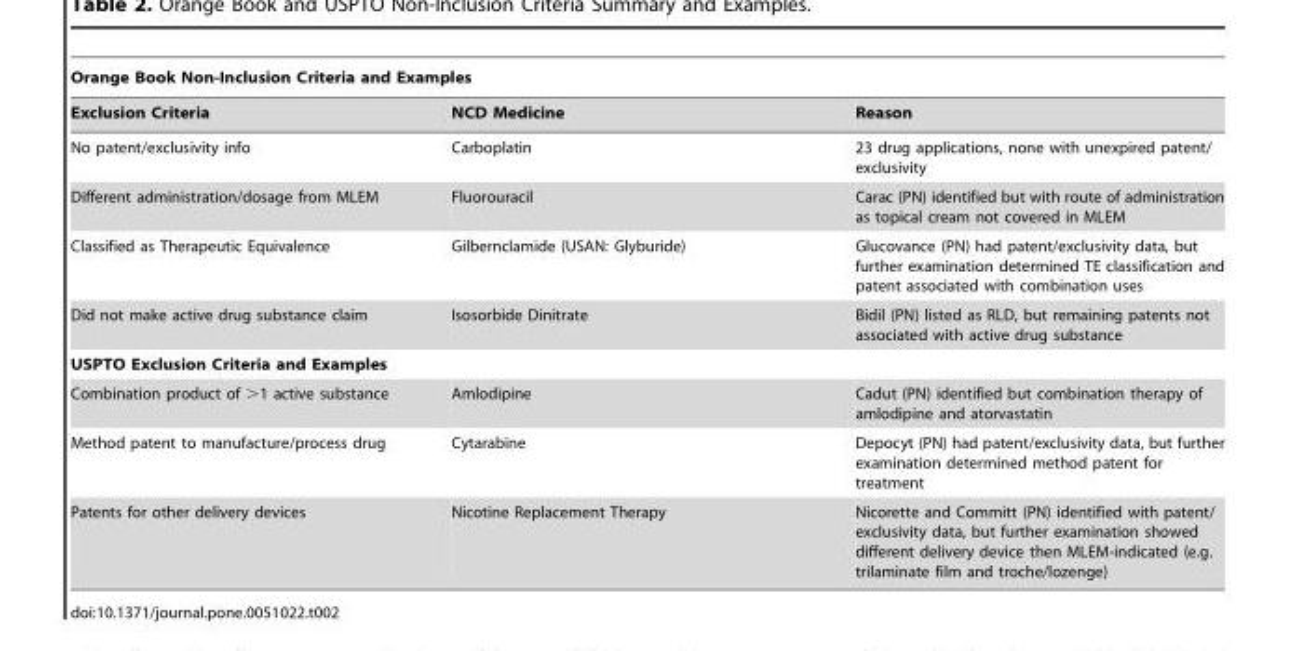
<table><thead><tr><td colspan="3">Orange Book Non-Inclusion Criteria and Examples</td></tr><tr><td>Exclusion Criteria</td><td>NCD Medicine</td><td>Reason</td></tr></thead><tbody><tr><td>No patent/exclusivity info</td><td>Carboplatin</td><td>23 drug applications, none with unexpired patent/ exclusivity</td></tr><tr><td>Different administration/dosage from MLEM</td><td>Fluorouracil</td><td>Carac (PN) identified but with route of administration as topical cream not covered in MLEM</td></tr><tr><td>Classified as Therapeutic Equivalence</td><td>Gilbernclamide (USAN: Glyburide)</td><td>Glucovance (PN) had patent/exclusivity data, but further examination determined TE classification and patent associated with combination uses</td></tr><tr><td>Did not make active drug substance claim</td><td>Isosorbide Dinitrate</td><td>Bidil (PN) listed as RLD, but remaining patents not associated with active drug substance</td></tr><tr><td colspan="3">USPTO Exclusion Criteria and Examples</td></tr><tr><td>Combination product of .1 active substance</td><td>Amlodipine</td><td>Cadut (PN) identified but combination therapy of amlodipine and atorvastatin</td></tr><tr><td>Method patent to manufacture/process drug</td><td>Cytarabine</td><td>Depocyt (PN) had patent/exclusivity data, but further examination determined method patent for treatment</td></tr><tr><td>Patents for other delivery devices</td><td>Nicotine Replacement Therapy</td><td>Nicorette and Committ (PN) identified with patent/ exclusivity data, but further examination showed different delivery device then MLEM-indicated (e.g. trilaminate film and troche/lozenge)</td></tr></tbody></table>